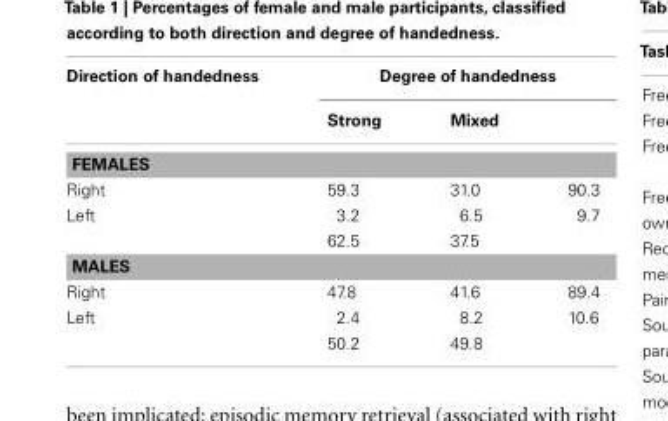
<table><thead><tr><td rowspan="2">Direction of handedness</td><td colspan="3">Degree of handedness</td></tr><tr><td>Strong</td><td>Mixed</td><td></td></tr></thead><tbody><tr><td colspan="4">FEMALES</td></tr><tr><td>Right</td><td>59.3</td><td>31.0</td><td>90.3</td></tr><tr><td rowspan="2">Left</td><td>3.2</td><td>6.5</td><td>9.7</td></tr><tr><td>62.5</td><td>37.5</td><td></td></tr><tr><td colspan="4">MALES</td></tr><tr><td>Right</td><td>47.8</td><td>41.6</td><td>89.4</td></tr><tr><td rowspan="2">Left</td><td>2.4</td><td>8.2</td><td>10.6</td></tr><tr><td>50.2</td><td>49.8</td><td></td></tr></tbody></table>